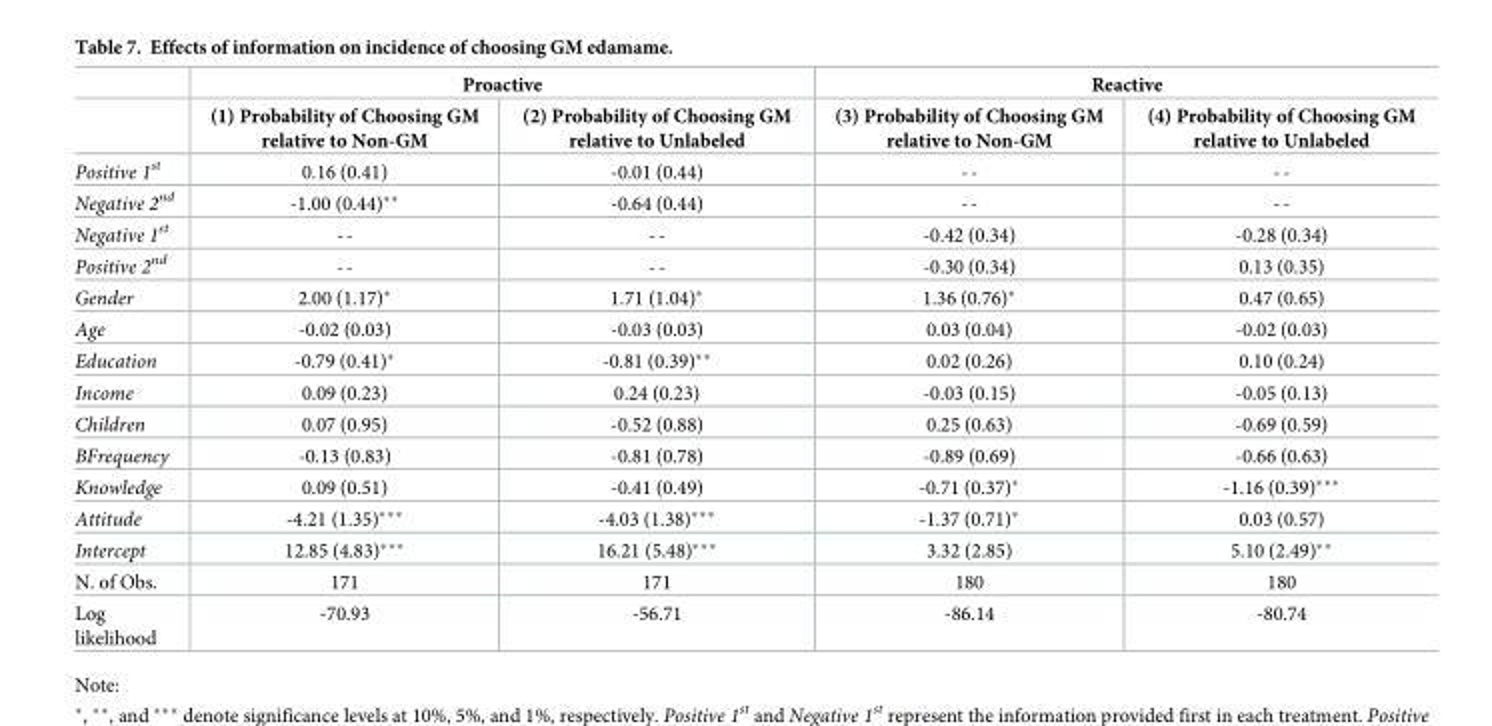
<table><thead><tr><td rowspan="2"></td><td colspan="2">Proactive</td><td colspan="2">Reactive</td></tr><tr><td>(1) Probability of Choosing GM relative to Non-GM</td><td>(2) Probability of Choosing GM relative to Unlabeled</td><td>(3) Probability of Choosing GM relative to Non-GM</td><td>(4) Probability of Choosing GM relative to Unlabeled</td></tr></thead><tbody><tr><td>Positive 1<sup>st</sup></td><td>0.16 (0.41)</td><td>-0.01 (0.44)</td><td>--</td><td>--</td></tr><tr><td>Negative 2<sup>nd</sup></td><td>-1.00 (0.44)**</td><td>-0.64 (0.44)</td><td>--</td><td>--</td></tr><tr><td>Negative 1<sup>st</sup></td><td>--</td><td>--</td><td>-0.42 (0.34)</td><td>-0.28 (0.34)</td></tr><tr><td>Positive 2<sup>nd</sup></td><td>--</td><td>--</td><td>-0.30 (0.34)</td><td>0.13 (0.35)</td></tr><tr><td>Gender</td><td>2.00 (1.17)*</td><td>1.71 (1.04)*</td><td>1.36 (0.76)*</td><td>0.47 (0.65)</td></tr><tr><td>Age</td><td>-0.02 (0.03)</td><td>-0.03 (0.03)</td><td>0.03 (0.04)</td><td>-0.02 (0.03)</td></tr><tr><td>Education</td><td>-0.79 (0.41)*</td><td>-0.81 (0.39)**</td><td>0.02 (0.26)</td><td>0.10 (0.24)</td></tr><tr><td>Income</td><td>0.09 (0.23)</td><td>0.24 (0.23)</td><td>-0.03 (0.15)</td><td>-0.05 (0.13)</td></tr><tr><td>Children</td><td>0.07 (0.95)</td><td>-0.52 (0.88)</td><td>0.25 (0.63)</td><td>-0.69 (0.59)</td></tr><tr><td>BFrequency</td><td>-0.13 (0.83)</td><td>-0.81 (0.78)</td><td>-0.89 (0.69)</td><td>-0.66 (0.63)</td></tr><tr><td>Knowledge</td><td>0.09 (0.51)</td><td>-0.41 (0.49)</td><td>-0.71 (0.37)*</td><td>-1.16 (0.39)***</td></tr><tr><td>Attitude</td><td>-4.21 (1.35)***</td><td>-4.03 (1.38)***</td><td>-1.37 (0.71)*</td><td>0.03 (0.57)</td></tr><tr><td>Intercept</td><td>12.85 (4.83)***</td><td>16.21 (5.48)***</td><td>3.32 (2.85)</td><td>5.10 (2.49)**</td></tr><tr><td>N. of Obs.</td><td>171</td><td>171</td><td>180</td><td>180</td></tr><tr><td>Log likelihood</td><td>-70.93</td><td>-56.71</td><td>-86.14</td><td>-80.74</td></tr></tbody></table>